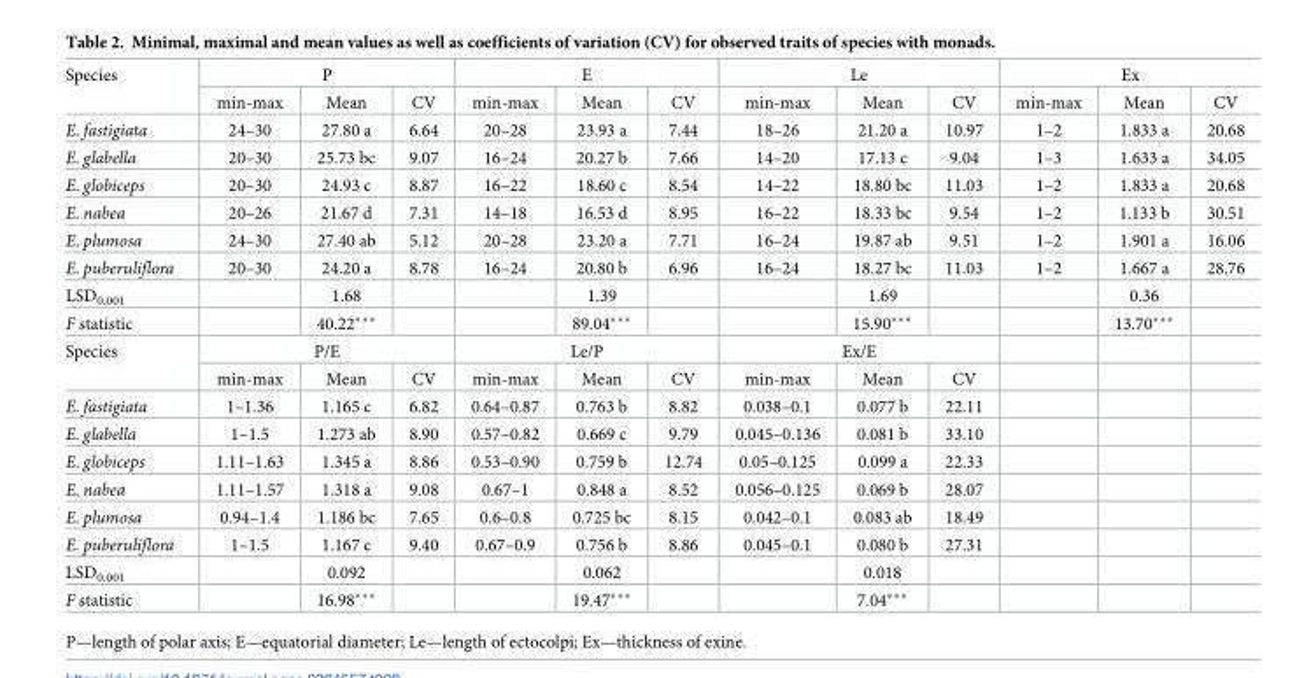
<table><tbody><tr><td rowspan="2">Species</td><td colspan="3">P</td><td colspan="3">E</td><td colspan="3">Le</td><td colspan="3">Ex</td></tr><tr><td>min-max</td><td>Mean</td><td>CV</td><td>min-max</td><td>Mean</td><td>CV</td><td>min-max</td><td>Mean</td><td>CV</td><td>min-max</td><td>Mean</td><td>CV</td></tr><tr><td>E. fastigiata</td><td>24–30</td><td>27.80 a</td><td>6.64</td><td>20–28</td><td>23.93 a</td><td>7.44</td><td>18–26</td><td>21.20 a</td><td>10.97</td><td>1–2</td><td>1.833 a</td><td>20.68</td></tr><tr><td>E. glabella</td><td>20–30</td><td>25.73 bc</td><td>9.07</td><td>16–24</td><td>20.27 b</td><td>7.66</td><td>14–20</td><td>17.13 c</td><td>9.04</td><td>1–3</td><td>1.633 a</td><td>34.05</td></tr><tr><td>E. globiceps</td><td>20–30</td><td>24.93 c</td><td>8.87</td><td>16–22</td><td>18.60 c</td><td>8.54</td><td>14–22</td><td>18.80 bc</td><td>11.03</td><td>1–2</td><td>1.833 a</td><td>20.68</td></tr><tr><td>E. nabea</td><td>20–26</td><td>21.67 d</td><td>7.31</td><td>14–18</td><td>16.53 d</td><td>8.95</td><td>16–22</td><td>18.33 bc</td><td>9.54</td><td>1–2</td><td>1.133 b</td><td>30.51</td></tr><tr><td>E. plumosa</td><td>24–30</td><td>27.40 ab</td><td>5.12</td><td>20–28</td><td>23.20 a</td><td>7.71</td><td>16–24</td><td>19.87 ab</td><td>9.51</td><td>1–2</td><td>1.901 a</td><td>16.06</td></tr><tr><td>E. puberuliflora</td><td>20–30</td><td>24.20 a</td><td>8.78</td><td>16–24</td><td>20.80 b</td><td>6.96</td><td>16–24</td><td>18.27 bc</td><td>11.03</td><td>1–2</td><td>1.667 a</td><td>28.76</td></tr><tr><td>LSD<sub>0.001</sub></td><td></td><td>1.68</td><td></td><td></td><td>1.39</td><td></td><td></td><td>1.69</td><td></td><td></td><td>0.36</td><td></td></tr><tr><td>F statistic</td><td></td><td>40.22***</td><td></td><td></td><td>89.04***</td><td></td><td></td><td>15.90***</td><td></td><td></td><td>13.70***</td><td></td></tr><tr><td rowspan="2">Species</td><td colspan="3">P/E</td><td colspan="3">Le/P</td><td colspan="3">Ex/E</td><td></td><td></td><td></td></tr><tr><td>min-max</td><td>Mean</td><td>CV</td><td>min-max</td><td>Mean</td><td>CV</td><td>min-max</td><td>Mean</td><td>CV</td><td></td><td></td><td></td></tr><tr><td>E. fastigiata</td><td>1–1.36</td><td>1.165 c</td><td>6.82</td><td>0.64–0.87</td><td>0.763 b</td><td>8.82</td><td>0.038–0.1</td><td>0.077 b</td><td>22.11</td><td></td><td></td><td></td></tr><tr><td>E. glabella</td><td>1–1.5</td><td>1.273 ab</td><td>8.90</td><td>0.57–0.82</td><td>0.669 c</td><td>9.79</td><td>0.045–0.136</td><td>0.081 b</td><td>33.10</td><td></td><td></td><td></td></tr><tr><td>E. globiceps</td><td>1.11–1.63</td><td>1.345 a</td><td>8.86</td><td>0.53–0.90</td><td>0.759 b</td><td>12.74</td><td>0.05–0.125</td><td>0.099 a</td><td>22.33</td><td></td><td></td><td></td></tr><tr><td>E. nabea</td><td>1.11–1.57</td><td>1.318 a</td><td>9.08</td><td>0.67–1</td><td>0.848 a</td><td>8.52</td><td>0.056–0.125</td><td>0.069 b</td><td>28.07</td><td></td><td></td><td></td></tr><tr><td>E. plumosa</td><td>0.94–1.4</td><td>1.186 bc</td><td>7.65</td><td>0.6–0.8</td><td>0.725 bc</td><td>8.15</td><td>0.042–0.1</td><td>0.083 ab</td><td>18.49</td><td></td><td></td><td></td></tr><tr><td>E. puberuliflora</td><td>1–1.5</td><td>1.167 c</td><td>9.40</td><td>0.67–0.9</td><td>0.756 b</td><td>8.86</td><td>0.045–0.1</td><td>0.080 b</td><td>27.31</td><td></td><td></td><td></td></tr><tr><td>LSD<sub>0.001</sub></td><td></td><td>0.092</td><td></td><td></td><td>0.062</td><td></td><td></td><td>0.018</td><td></td><td></td><td></td><td></td></tr><tr><td>F statistic</td><td></td><td>16.98***</td><td></td><td></td><td>19.47***</td><td></td><td></td><td>7.04***</td><td></td><td></td><td></td><td></td></tr></tbody></table>